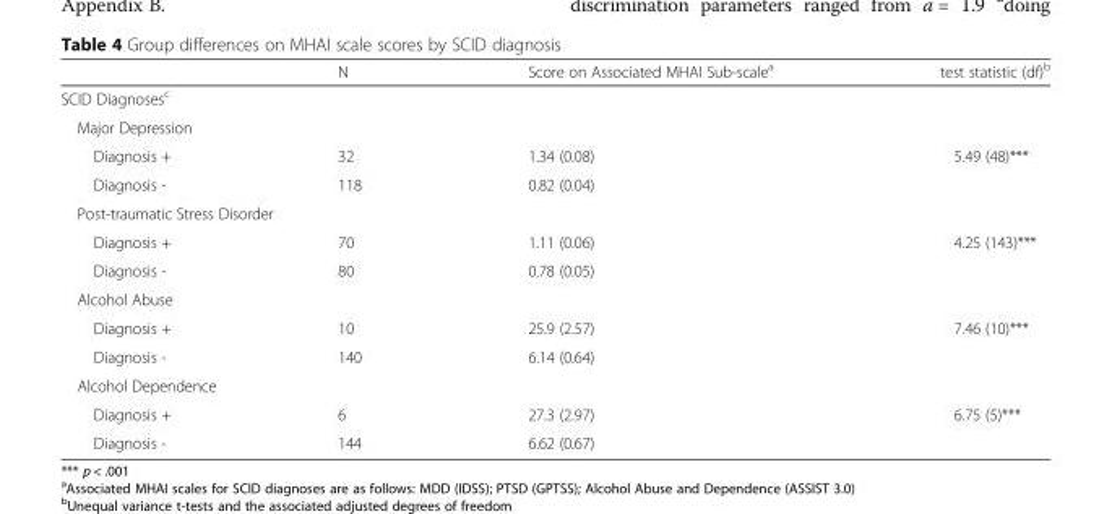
<table><thead><tr><td></td><td>N</td><td>Score on Associated MHAI Sub-scale<sup>a</sup></td><td>test statistic (df)<sup>b</sup></td></tr></thead><tbody><tr><td colspan="4">SCID Diagnoses<sup>c</sup></td></tr><tr><td colspan="4">Major Depression</td></tr><tr><td>Diagnosis +</td><td>32</td><td>1.34 (0.08)</td><td rowspan="2">5.49 (48)***</td></tr><tr><td>Diagnosis -</td><td>118</td><td>0.82 (0.04)</td></tr><tr><td colspan="4">Post-traumatic Stress Disorder</td></tr><tr><td>Diagnosis +</td><td>70</td><td>1.11 (0.06)</td><td rowspan="2">4.25 (143)***</td></tr><tr><td>Diagnosis -</td><td>80</td><td>0.78 (0.05)</td></tr><tr><td colspan="4">Alcohol Abuse</td></tr><tr><td>Diagnosis +</td><td>10</td><td>25.9 (2.57)</td><td rowspan="2">7.46 (10)***</td></tr><tr><td>Diagnosis -</td><td>140</td><td>6.14 (0.64)</td></tr><tr><td colspan="4">Alcohol Dependence</td></tr><tr><td>Diagnosis +</td><td>6</td><td>27.3 (2.97)</td><td rowspan="2">6.75 (5)***</td></tr><tr><td>Diagnosis -</td><td>144</td><td>6.62 (0.67)</td></tr></tbody></table>